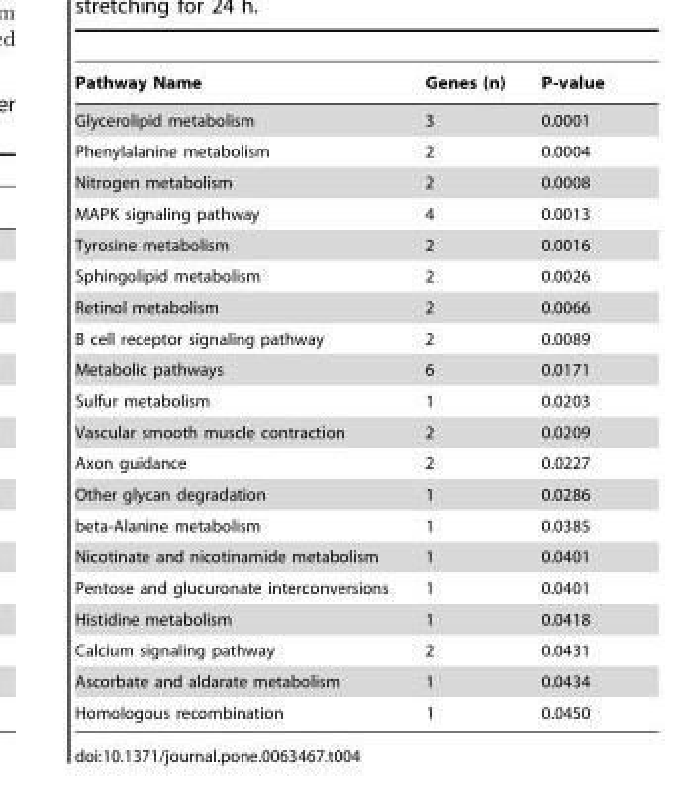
<table><thead><tr><td>Pathway Name</td><td>Genes (n)</td><td>P-value</td></tr></thead><tbody><tr><td>Glycerolipid metabolism</td><td>3</td><td>0.0001</td></tr><tr><td>Phenylalanine metabolism</td><td>2</td><td>0.0004</td></tr><tr><td>Nitrogen metabolism</td><td>2</td><td>0.0008</td></tr><tr><td>MAPK signaling pathway</td><td>4</td><td>0.0013</td></tr><tr><td>Tyrosine metabolism</td><td>2</td><td>0.0016</td></tr><tr><td>Sphingolipid metabolism</td><td>2</td><td>0.0026</td></tr><tr><td>Retinol metabolism</td><td>2</td><td>0.0066</td></tr><tr><td>B cell receptor signaling pathway</td><td>2</td><td>0.0089</td></tr><tr><td>Metabolic pathways</td><td>6</td><td>0.0171</td></tr><tr><td>Sulfur metabolism</td><td>1</td><td>0.0203</td></tr><tr><td>Vascular smooth muscle contraction</td><td>2</td><td>0.0209</td></tr><tr><td>Axon guidance</td><td>2</td><td>0.0227</td></tr><tr><td>Other glycan degradation</td><td>1</td><td>0.0286</td></tr><tr><td>beta-Alanine metabolism</td><td>1</td><td>0.0385</td></tr><tr><td>Nicotinate and nicotinamide metabolism</td><td>1</td><td>0.0401</td></tr><tr><td>Pentose and glucuronate interconversions</td><td>1</td><td>0.0401</td></tr><tr><td>Histidine metabolism</td><td>1</td><td>0.0418</td></tr><tr><td>Calcium signaling pathway</td><td>2</td><td>0.0431</td></tr><tr><td>Ascorbate and aldarate metabolism</td><td>1</td><td>0.0434</td></tr><tr><td>Homologous recombination</td><td>1</td><td>0.0450</td></tr></tbody></table>